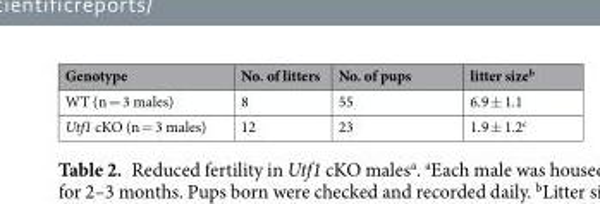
<table><thead><tr><td>Genotype</td><td>No. of litters</td><td>No. of pups</td><td>litter size<sup>b</sup></td></tr></thead><tbody><tr><td>WT (n = 3 males)</td><td>8</td><td>55</td><td>6.9 ± 1.1</td></tr><tr><td>Utf1 cKO (n = 3 males)</td><td>12</td><td>23</td><td>1.9 ± 1.2<sup>c</sup></td></tr></tbody></table>